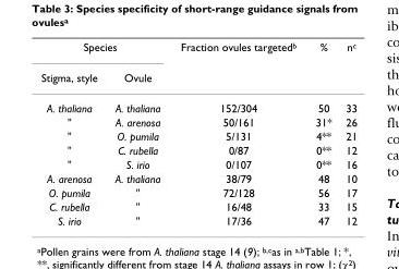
<table><thead><tr><td colspan="2">Species</td><td rowspan="2">Fraction ovules targetedb</td><td rowspan="2">%</td><td rowspan="2">nc</td></tr><tr><td>Stigma, style</td><td>Ovule</td></tr></thead><tbody><tr><td>A. thaliana</td><td>A. thaliana</td><td>152/304</td><td>50</td><td>33</td></tr><tr><td>&quot;</td><td>A. arenosa</td><td>50/161</td><td>31*</td><td>26</td></tr><tr><td>&quot;</td><td>O. pumila</td><td>5/131</td><td>4**</td><td>21</td></tr><tr><td>&quot;</td><td>C. rubella</td><td>0/87</td><td>0**</td><td>12</td></tr><tr><td>&quot;</td><td>S. irio</td><td>0/107</td><td>0**</td><td>16</td></tr><tr><td>A. arenosa</td><td>A. thaliana</td><td>38/79</td><td>48</td><td>10</td></tr><tr><td>O. pumila</td><td>&quot;</td><td>72/128</td><td>56</td><td>17</td></tr><tr><td>C. rubella</td><td>&quot;</td><td>16/48</td><td>33</td><td>15</td></tr><tr><td>S. irio</td><td>&quot;</td><td>17/36</td><td>47</td><td>12</td></tr></tbody></table>